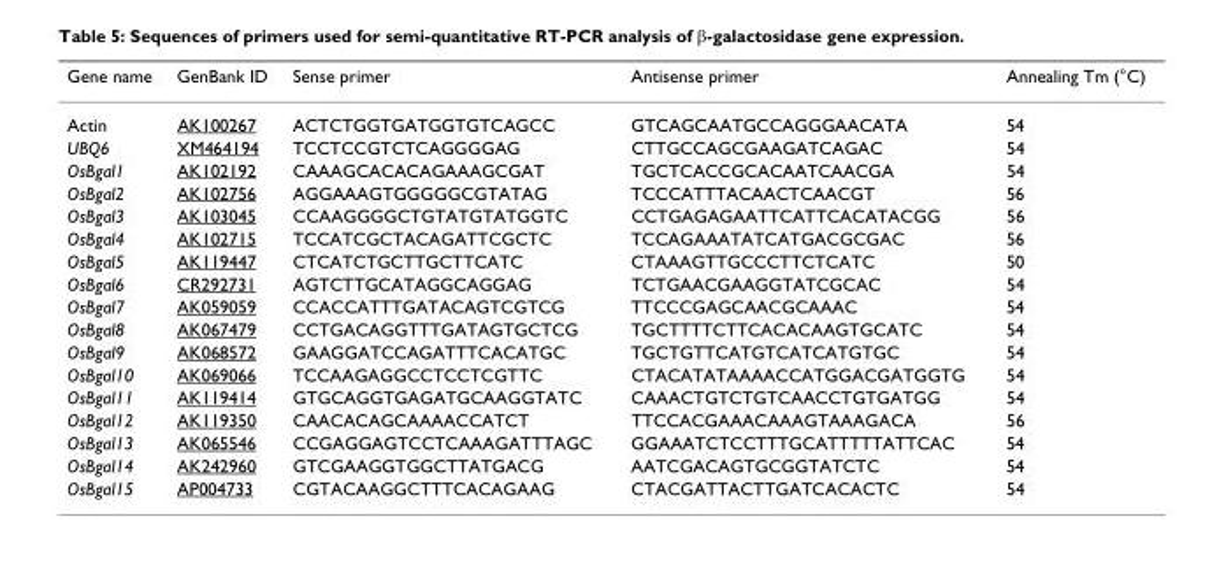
<table><thead><tr><td>Gene name</td><td>GenBank ID</td><td>Sense primer</td><td>Antisense primer</td><td>Annealing Tm (°C)</td></tr></thead><tbody><tr><td>Actin</td><td>AK100267</td><td>ACTCTGGTGATGGTGTCAGCC</td><td>GTCAGCAATGCCAGGGAACATA</td><td>54</td></tr><tr><td>UBQ6</td><td>XM464194</td><td>TCCTCCGTCTCAGGGGAG</td><td>CTTGCCAGCGAAGATCAGAC</td><td>54</td></tr><tr><td>OsBgal1</td><td>AK102192</td><td>CAAAGCACACAGAAAGCGAT</td><td>TGCTCACCGCACAATCAACGA</td><td>54</td></tr><tr><td>OsBgal2</td><td>AK102756</td><td>AGGAAAGTGGGGGCGTATAG</td><td>TCCCATTTACAACTCAACGT</td><td>56</td></tr><tr><td>OsBgal3</td><td>AK103045</td><td>CCAAGGGGCTGTATGTATGGTC</td><td>CCTGAGAGAATTCATTCACATACGG</td><td>56</td></tr><tr><td>OsBgal4</td><td>AK102715</td><td>TCCATCGCTACAGATTCGCTC</td><td>TCCAGAAATATCATGACGCGAC</td><td>56</td></tr><tr><td>OsBgal5</td><td>AK119447</td><td>CTCATCTGCTTGCTTCATC</td><td>CTAAAGTTGCCCTTCTCATC</td><td>50</td></tr><tr><td>OsBgal6</td><td>CR292731</td><td>AGTCTTGCATAGGCAGGAG</td><td>TCTGAACGAAGGTATCGCAC</td><td>54</td></tr><tr><td>OsBgal7</td><td>AK059059</td><td>CCACCATTTGATACAGTCGTCG</td><td>TTCCCGAGCAACGCAAAC</td><td>54</td></tr><tr><td>OsBgal8</td><td>AK067479</td><td>CCTGACAGGTTTGATAGTGCTCG</td><td>TGCTTTTCTTCACACAAGTGCATC</td><td>54</td></tr><tr><td>OsBgal9</td><td>AK068572</td><td>GAAGGATCCAGATTTCACATGC</td><td>TGCTGTTCATGTCATCATGTGC</td><td>54</td></tr><tr><td>OsBgal10</td><td>AK069066</td><td>TCCAAGAGGCCTCCTCGTTC</td><td>CTACATATAAAACCATGGACGATGGTG</td><td>54</td></tr><tr><td>OsBgal11</td><td>AK119414</td><td>GTGCAGGTGAGATGCAAGGTATC</td><td>CAAACTGTCTGTCAACCTGTGATGG</td><td>54</td></tr><tr><td>OsBgal12</td><td>AK119350</td><td>CAACACAGCAAAACCATCT</td><td>TTCCACGAAACAAAGTAAAGACA</td><td>56</td></tr><tr><td>OsBgal13</td><td>AK065546</td><td>CCGAGGAGTCCTCAAAGATTTAGC</td><td>GGAAATCTCCTTTGCATTTTTATTCAC</td><td>54</td></tr><tr><td>OsBgal14</td><td>AK242960</td><td>GTCGAAGGTGGCTTATGACG</td><td>AATCGACAGTGCGGTATCTC</td><td>54</td></tr><tr><td>OsBgal15</td><td>AP004733</td><td>CGTACAAGGCTTTCACAGAAG</td><td>CTACGATTACTTGATCACACTC</td><td>54</td></tr></tbody></table>